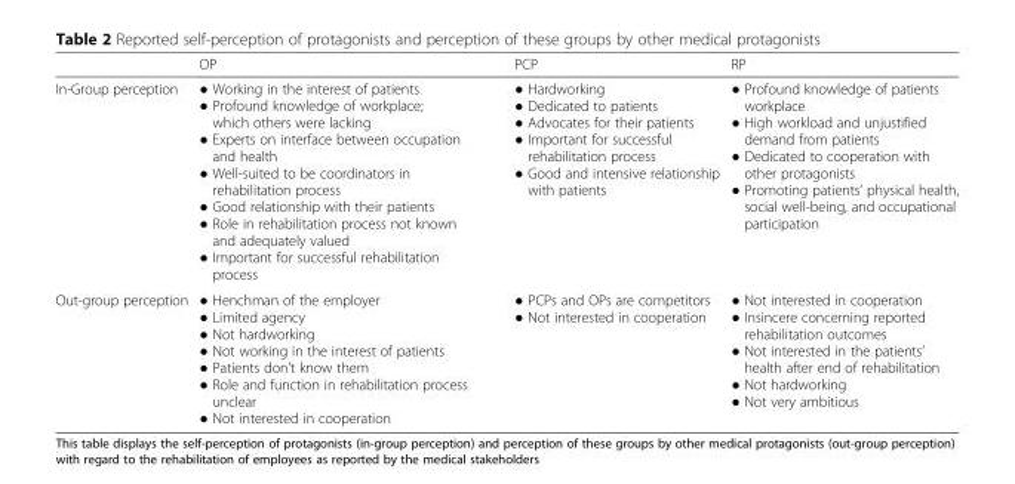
<table><thead><tr><td></td><td>OP</td><td>PCP</td><td>RP</td></tr></thead><tbody><tr><td>In-Group perception</td><td>● Working in the interest of patients ● Profound knowledge of workplace; which others were lacking ● Experts on interface between occupation and health ● Well-suited to be coordinators in rehabilitation process ● Good relationship with their patients ● Role in rehabilitation process not known and adequately valued ● Important for successful rehabilitation process</td><td>● Hardworking ● Dedicated to patients ● Advocates for their patients ● Important for successful rehabilitation process ● Good and intensive relationship with patients</td><td>● Profound knowledge of patients workplace ● High workload and unjustified demand from patients ● Dedicated to cooperation with other protagonists ● Promoting patients’ physical health, social well-being, and occupational participation</td></tr><tr><td>Out-group perception</td><td>● Henchman of the employer ● Limited agency ● Not hardworking ● Not working in the interest of patients ● Patients don’t know them ● Role and function in rehabilitation process unclear ● Not interested in cooperation</td><td>● PCPs and OPs are competitors ● Not interested in cooperation</td><td>● Not interested in cooperation ● Insincere concerning reported rehabilitation outcomes ● Not interested in the patients’ health after end of rehabilitation ● Not hardworking ● Not very ambitious</td></tr></tbody></table>